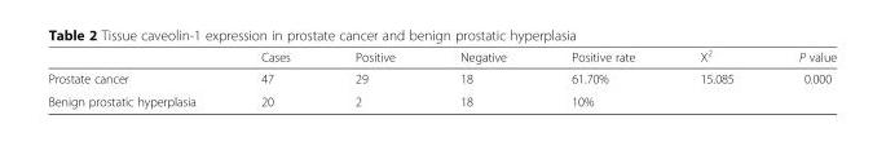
<table><thead><tr><td></td><td>Cases</td><td>Positive</td><td>Negative</td><td>Positive rate</td><td>X<sup>2</sup></td><td>P value</td></tr></thead><tbody><tr><td>Prostate cancer</td><td>47</td><td>29</td><td>18</td><td>61.70%</td><td rowspan="2">15.085</td><td rowspan="2">0.000</td></tr><tr><td>Benign prostatic hyperplasia</td><td>20</td><td>2</td><td>18</td><td>10%</td></tr></tbody></table>